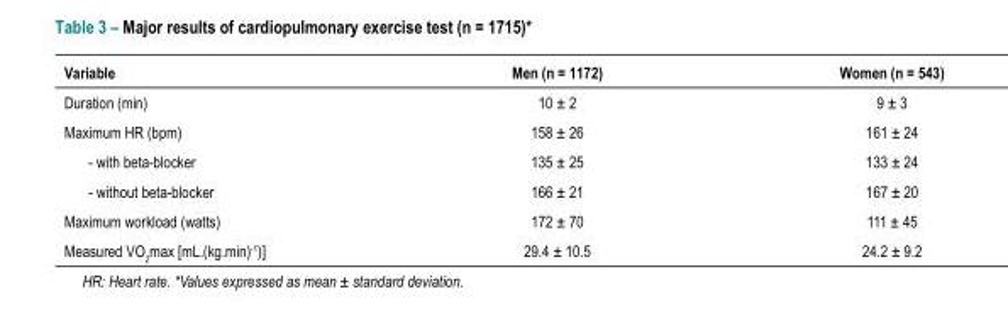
<table><thead><tr><td>Variable</td><td>Men (n = 1172)</td><td>Women (n = 543)</td></tr></thead><tbody><tr><td>Duration (min)</td><td>10 ± 2</td><td>9 ± 3</td></tr><tr><td>Maximum HR (bpm)</td><td>158 ± 26</td><td>161 ± 24</td></tr><tr><td>- with beta-blocker</td><td>135 ± 25</td><td>133 ± 24</td></tr><tr><td>- without beta-blocker</td><td>166 ± 21</td><td>167 ± 20</td></tr><tr><td>Maximum workload (watts)</td><td>172 ± 70</td><td>111 ± 45</td></tr><tr><td>Measured VO<sub>2</sub>max [mL.(kg.min)<sup>-1</sup>)]</td><td>29.4 ± 10.5</td><td>24.2 ± 9.2</td></tr></tbody></table>